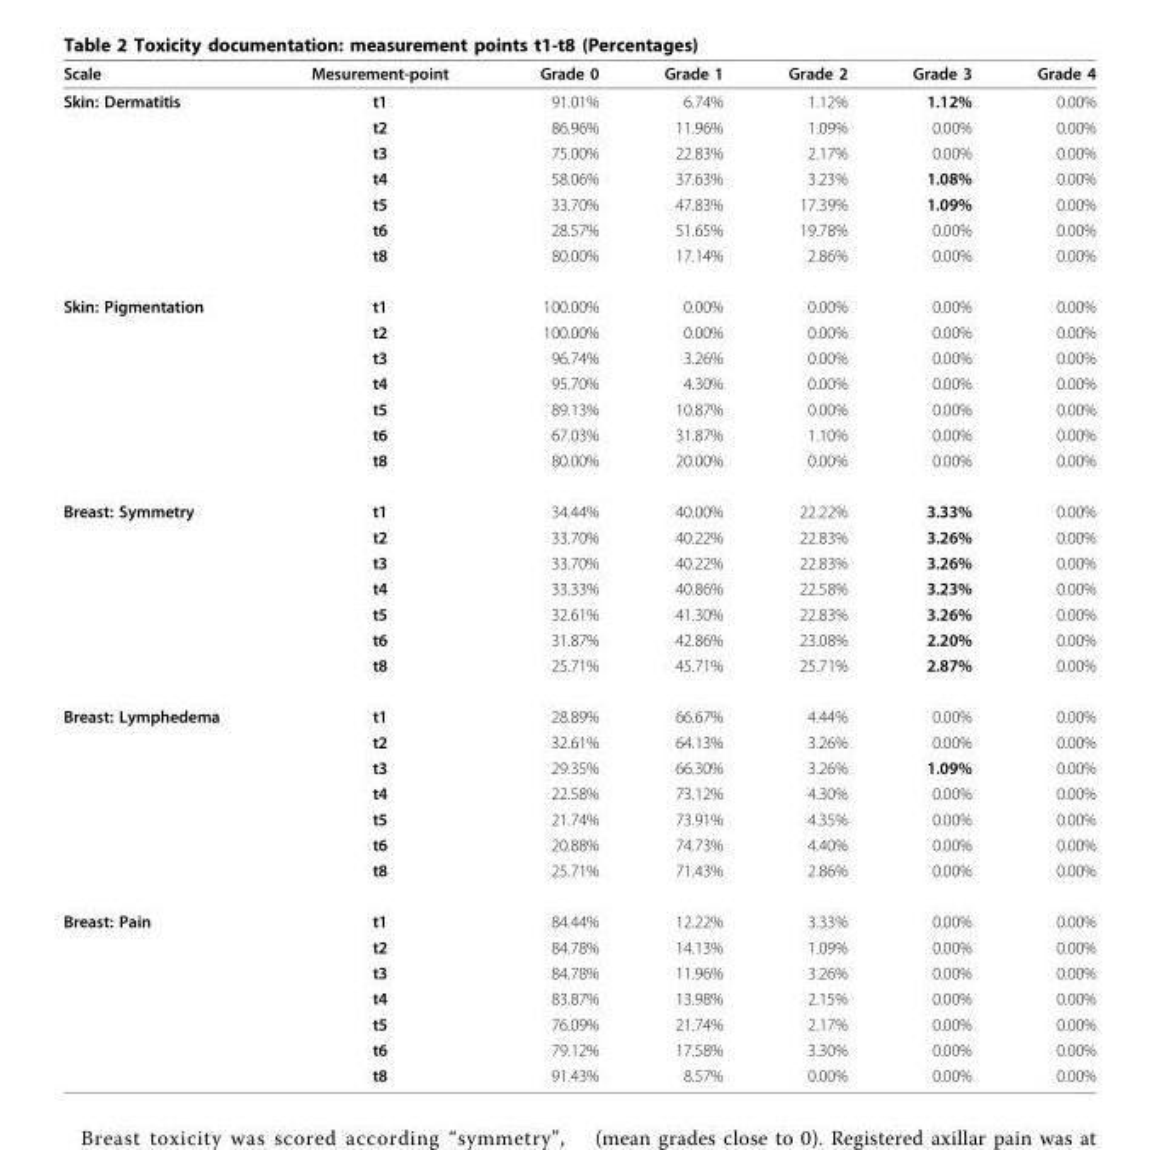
<table><thead><tr><td>Scale</td><td>Mesurement-point</td><td>Grade 0</td><td>Grade 1</td><td>Grade 2</td><td>Grade 3</td><td>Grade 4</td></tr></thead><tbody><tr><td rowspan="7">Skin: Dermatitis</td><td>t1</td><td>91.01%</td><td>6.74%</td><td>1.12%</td><td>1.12%</td><td>0.00%</td></tr><tr><td>t2</td><td>86.96%</td><td>11.96%</td><td>1.09%</td><td>0.00%</td><td>0.00%</td></tr><tr><td>t3</td><td>75.00%</td><td>22.83%</td><td>2.17%</td><td>0.00%</td><td>0.00%</td></tr><tr><td>t4</td><td>58.06%</td><td>37.63%</td><td>3.23%</td><td>1.08%</td><td>0.00%</td></tr><tr><td>t5</td><td>33.70%</td><td>47.83%</td><td>17.39%</td><td>1.09%</td><td>0.00%</td></tr><tr><td>t6</td><td>28.57%</td><td>51.65%</td><td>19.78%</td><td>0.00%</td><td>0.00%</td></tr><tr><td>t8</td><td>80.00%</td><td>17.14%</td><td>2.86%</td><td>0.00%</td><td>0.00%</td></tr><tr><td rowspan="7">Skin: Pigmentation</td><td>t1</td><td>100.00%</td><td>0.00%</td><td>0.00%</td><td>0.00%</td><td>0.00%</td></tr><tr><td>t2</td><td>100.00%</td><td>0.00%</td><td>0.00%</td><td>0.00%</td><td>0.00%</td></tr><tr><td>t3</td><td>96.74%</td><td>3.26%</td><td>0.00%</td><td>0.00%</td><td>0.00%</td></tr><tr><td>t4</td><td>95.70%</td><td>4.30%</td><td>0.00%</td><td>0.00%</td><td>0.00%</td></tr><tr><td>t5</td><td>89.13%</td><td>10.87%</td><td>0.00%</td><td>0.00%</td><td>0.00%</td></tr><tr><td>t6</td><td>67.03%</td><td>31.87%</td><td>1.10%</td><td>0.00%</td><td>0.00%</td></tr><tr><td>t8</td><td>80.00%</td><td>20.00%</td><td>0.00%</td><td>0.00%</td><td>0.00%</td></tr><tr><td rowspan="7">Breast: Symmetry</td><td>t1</td><td>34.44%</td><td>40.00%</td><td>22.22%</td><td>3.33%</td><td>0.00%</td></tr><tr><td>t2</td><td>33.70%</td><td>40.22%</td><td>22.83%</td><td>3.26%</td><td>0.00%</td></tr><tr><td>t3</td><td>33.70%</td><td>40.22%</td><td>22.83%</td><td>3.26%</td><td>0.00%</td></tr><tr><td>t4</td><td>33.33%</td><td>40.86%</td><td>22.58%</td><td>3.23%</td><td>0.00%</td></tr><tr><td>t5</td><td>32.61%</td><td>41.30%</td><td>22.83%</td><td>3.26%</td><td>0.00%</td></tr><tr><td>t6</td><td>31.87%</td><td>42.86%</td><td>23.08%</td><td>2.20%</td><td>0.00%</td></tr><tr><td>t8</td><td>25.71%</td><td>45.71%</td><td>25.71%</td><td>2.87%</td><td>0.00%</td></tr><tr><td rowspan="7">Breast: Lymphedema</td><td>t1</td><td>28.89%</td><td>66.67%</td><td>4.44%</td><td>0.00%</td><td>0.00%</td></tr><tr><td>t2</td><td>32.61%</td><td>64.13%</td><td>3.26%</td><td>0.00%</td><td>0.00%</td></tr><tr><td>t3</td><td>29.35%</td><td>66.30%</td><td>3.26%</td><td>1.09%</td><td>0.00%</td></tr><tr><td>t4</td><td>22.58%</td><td>73.12%</td><td>4.30%</td><td>0.00%</td><td>0.00%</td></tr><tr><td>t5</td><td>21.74%</td><td>73.91%</td><td>4.35%</td><td>0.00%</td><td>0.00%</td></tr><tr><td>t6</td><td>20.88%</td><td>74.73%</td><td>4.40%</td><td>0.00%</td><td>0.00%</td></tr><tr><td>t8</td><td>25.71%</td><td>71.43%</td><td>2.86%</td><td>0.00%</td><td>0.00%</td></tr><tr><td rowspan="7">Breast: Pain</td><td>t1</td><td>84.44%</td><td>12.22%</td><td>3.33%</td><td>0.00%</td><td>0.00%</td></tr><tr><td>t2</td><td>84.78%</td><td>14.13%</td><td>1.09%</td><td>0.00%</td><td>0.00%</td></tr><tr><td>t3</td><td>84.78%</td><td>11.96%</td><td>3.26%</td><td>0.00%</td><td>0.00%</td></tr><tr><td>t4</td><td>83.87%</td><td>13.98%</td><td>2.15%</td><td>0.00%</td><td>0.00%</td></tr><tr><td>t5</td><td>76.09%</td><td>21.74%</td><td>2.17%</td><td>0.00%</td><td>0.00%</td></tr><tr><td>t6</td><td>79.12%</td><td>17.58%</td><td>3.30%</td><td>0.00%</td><td>0.00%</td></tr><tr><td>t8</td><td>91.43%</td><td>8.57%</td><td>0.00%</td><td>0.00%</td><td>0.00%</td></tr></tbody></table>